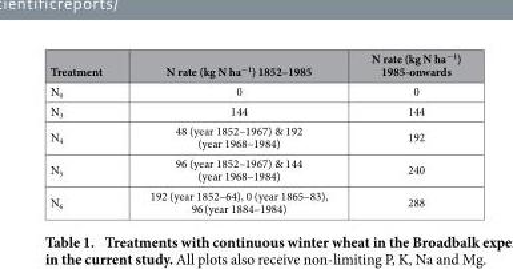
<table><thead><tr><td>Treatment</td><td>N rate (kg N ha<sup>−1</sup>) 1852–1985</td><td>N rate (kg N ha<sup>−1</sup>) 1985-onwards</td></tr></thead><tbody><tr><td>N<sub>0</sub></td><td>0</td><td>0</td></tr><tr><td>N<sub>3</sub></td><td>144</td><td>144</td></tr><tr><td>N<sub>4</sub></td><td>48 (year 1852–1967) &amp; 192 (year 1968–1984)</td><td>192</td></tr><tr><td>N<sub>5</sub></td><td>96 (year 1852–1967) &amp; 144 (year 1968–1984)</td><td>240</td></tr><tr><td>N<sub>6</sub></td><td>192 (year 1852–64), 0 (year 1865–83), 96 (year 1884–1984)</td><td>288</td></tr></tbody></table>